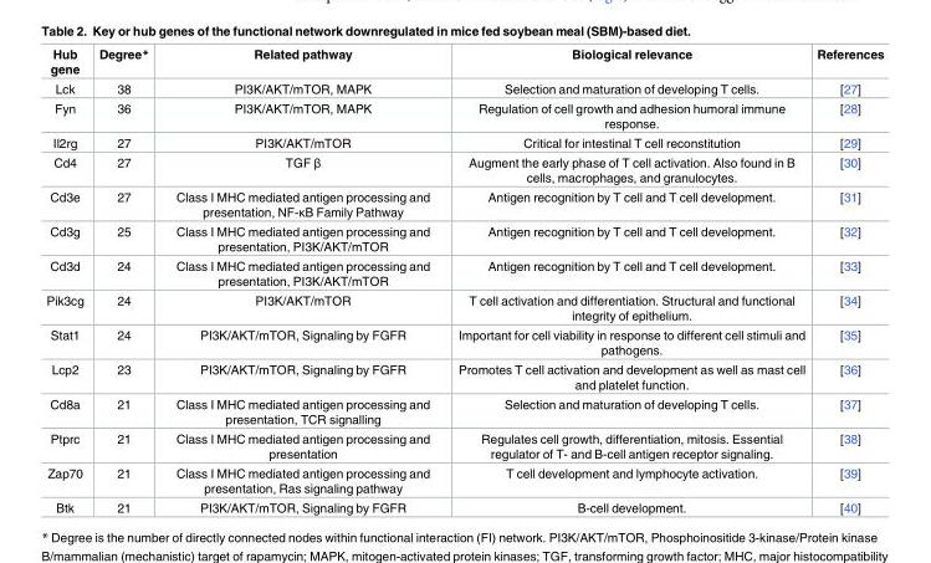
<table><thead><tr><td>Hub gene</td><td>Degree*</td><td>Related pathway</td><td>Biological relevance</td><td>References</td></tr></thead><tbody><tr><td>Lck</td><td>38</td><td>PI3K/AKT/mTOR, MAPK</td><td>Selection and maturation of developing T cells.</td><td>[27]</td></tr><tr><td>Fyn</td><td>36</td><td>PI3K/AKT/mTOR, MAPK</td><td>Regulation of cell growth and adhesion humoral immune response.</td><td>[28]</td></tr><tr><td>Il2rg</td><td>27</td><td>PI3K/AKT/mTOR</td><td>Critical for intestinal T cell reconstitution</td><td>[29]</td></tr><tr><td>Cd4</td><td>27</td><td>TGF β</td><td>Augment the early phase of T cell activation. Also found in B cells, macrophages, and granulocytes.</td><td>[30]</td></tr><tr><td>Cd3e</td><td>27</td><td>Class I MHC mediated antigen processing and presentation, NF-κB Family Pathway</td><td>Antigen recognition by T cell and T cell development.</td><td>[31]</td></tr><tr><td>Cd3g</td><td>25</td><td>Class I MHC mediated antigen processing and presentation, PI3K/AKT/mTOR</td><td>Antigen recognition by T cell and T cell development.</td><td>[32]</td></tr><tr><td>Cd3d</td><td>24</td><td>Class I MHC mediated antigen processing and presentation, PI3K/AKT/mTOR</td><td>Antigen recognition by T cell and T cell development.</td><td>[33]</td></tr><tr><td>Pik3cg</td><td>24</td><td>PI3K/AKT/mTOR</td><td>T cell activation and differentiation. Structural and functional integrity of epithelium.</td><td>[34]</td></tr><tr><td>Stat1</td><td>24</td><td>PI3K/AKT/mTOR, Signaling by FGFR</td><td>Important for cell viability in response to different cell stimuli and pathogens.</td><td>[35]</td></tr><tr><td>Lcp2</td><td>23</td><td>PI3K/AKT/mTOR, Signaling by FGFR</td><td>Promotes T cell activation and development as well as mast cell and platelet function.</td><td>[36]</td></tr><tr><td>Cd8a</td><td>21</td><td>Class I MHC mediated antigen processing and presentation, TCR signalling</td><td>Selection and maturation of developing T cells.</td><td>[37]</td></tr><tr><td>Ptprc</td><td>21</td><td>Class I MHC mediated antigen processing and presentation</td><td>Regulates cell growth, differentiation, mitosis. Essential regulator of T- and B-cell antigen receptor signaling.</td><td>[38]</td></tr><tr><td>Zap70</td><td>21</td><td>Class I MHC mediated antigen processing and presentation, Ras signaling pathway</td><td>T cell development and lymphocyte activation.</td><td>[39]</td></tr><tr><td>Btk</td><td>21</td><td>PI3K/AKT/mTOR, Signaling by FGFR</td><td>B-cell development.</td><td>[40]</td></tr></tbody></table>